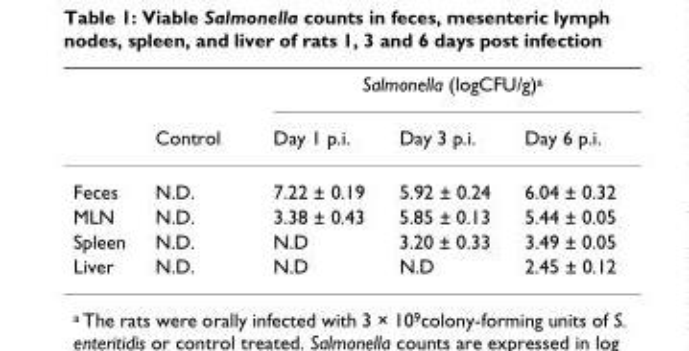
<table><thead><tr><td rowspan="2"></td><td rowspan="2">Control</td><td colspan="3">Salmonella (logCFU/g)<sup>a</sup></td></tr><tr><td>Day 1 p.i.</td><td>Day 3 p.i.</td><td>Day 6 p.i.</td></tr></thead><tbody><tr><td>Feces</td><td>N.D.</td><td>7.22 ± 0.19</td><td>5.92 ± 0.24</td><td>6.04 ± 0.32</td></tr><tr><td>MLN</td><td>N.D.</td><td>3.38 ± 0.43</td><td>5.85 ± 0.13</td><td>5.44 ± 0.05</td></tr><tr><td>Spleen</td><td>N.D.</td><td>N.D</td><td>3.20 ± 0.33</td><td>3.49 ± 0.05</td></tr><tr><td>Liver</td><td>N.D.</td><td>N.D</td><td>N.D</td><td>2.45 ± 0.12</td></tr></tbody></table>